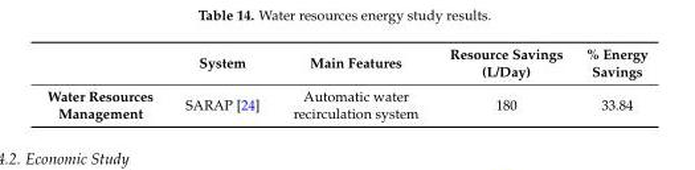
<table><thead><tr><td></td><td>System</td><td>Main Features</td><td>Resource Savings (L/Day)</td><td>% Energy Savings</td></tr></thead><tbody><tr><td>Water Resources Management</td><td>SARAP [24]</td><td>Automatic water recirculation system</td><td>180</td><td>33.84</td></tr></tbody></table>